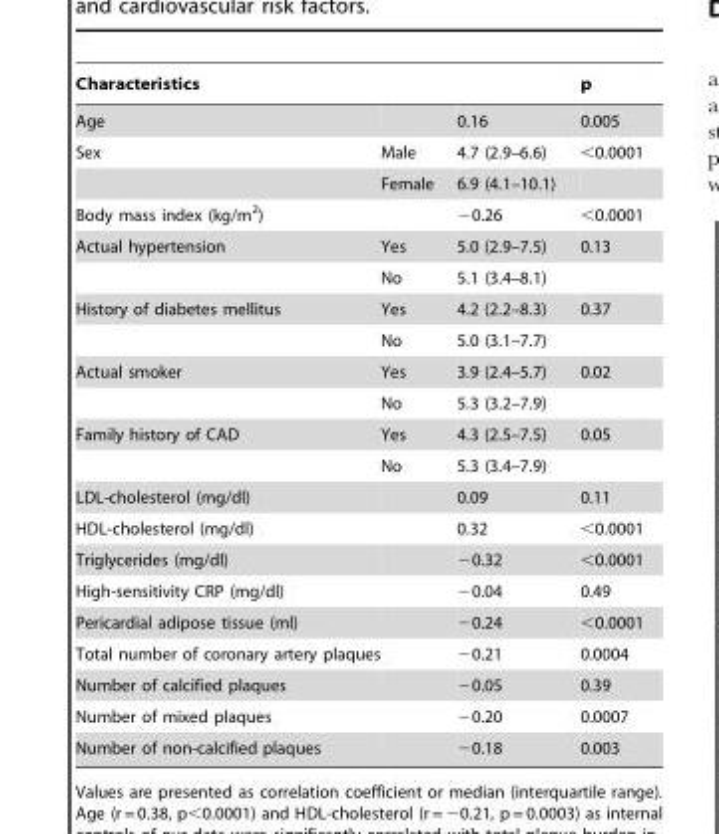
<table><thead><tr><td>Characteristics</td><td></td><td></td><td>p</td></tr></thead><tbody><tr><td>Age</td><td></td><td>0.16</td><td>0.005</td></tr><tr><td rowspan="2">Sex</td><td>Male</td><td>4.7 (2.9–6.6)</td><td>&lt;0.0001</td></tr><tr><td>Female</td><td>6.9 (4.1–10.1)</td><td></td></tr><tr><td>Body mass index (kg/m<sup>2</sup>)</td><td></td><td>−0.26</td><td>&lt;0.0001</td></tr><tr><td rowspan="2">Actual hypertension</td><td>Yes</td><td>5.0 (2.9–7.5)</td><td>0.13</td></tr><tr><td>No</td><td>5.1 (3.4–8.1)</td><td></td></tr><tr><td rowspan="2">History of diabetes mellitus</td><td>Yes</td><td>4.2 (2.2–8.3)</td><td>0.37</td></tr><tr><td>No</td><td>5.0 (3.1–7.7)</td><td></td></tr><tr><td rowspan="2">Actual smoker</td><td>Yes</td><td>3.9 (2.4–5.7)</td><td>0.02</td></tr><tr><td>No</td><td>5.3 (3.2–7.9)</td><td></td></tr><tr><td rowspan="2">Family history of CAD</td><td>Yes</td><td>4.3 (2.5–7.5)</td><td>0.05</td></tr><tr><td>No</td><td>5.3 (3.4–7.9)</td><td></td></tr><tr><td>LDL-cholesterol (mg/dl)</td><td></td><td>0.09</td><td>0.11</td></tr><tr><td>HDL-cholesterol (mg/dl)</td><td></td><td>0.32</td><td>&lt;0.0001</td></tr><tr><td>Triglycerides (mg/dl)</td><td></td><td>−0.32</td><td>&lt;0.0001</td></tr><tr><td>High-sensitivity CRP (mg/dl)</td><td></td><td>−0.04</td><td>0.49</td></tr><tr><td>Pericardial adipose tissue (ml)</td><td></td><td>−0.24</td><td>&lt;0.0001</td></tr><tr><td>Total number of coronary artery plaques</td><td></td><td>−0.21</td><td>0.0004</td></tr><tr><td>Number of calcified plaques</td><td></td><td>−0.05</td><td>0.39</td></tr><tr><td>Number of mixed plaques</td><td></td><td>−0.20</td><td>0.0007</td></tr><tr><td>Number of non-calcified plaques</td><td></td><td>−0.18</td><td>0.003</td></tr></tbody></table>